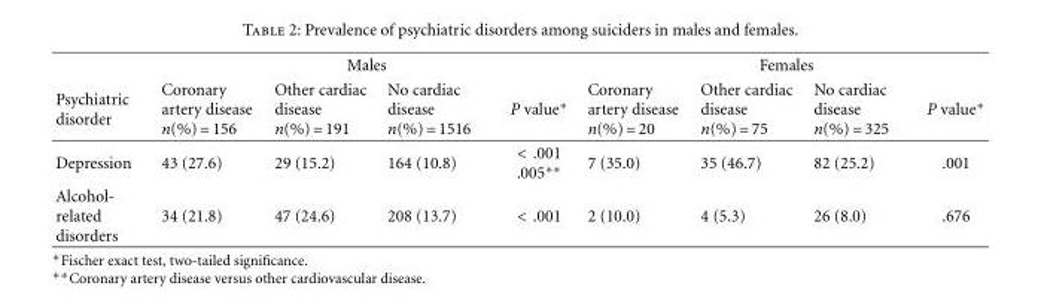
<table><thead><tr><td rowspan="2">Psychiatric disorder</td><td colspan="4">Males</td><td colspan="4">Females</td></tr><tr><td>Coronary artery disease n(%) = 156</td><td>Other cardiac disease n(%) = 191</td><td>No cardiac disease n(%) = 1516</td><td>P value∗</td><td>Coronary artery disease n(%) = 20</td><td>Other cardiac disease n(%) = 75</td><td>No cardiac disease n(%) = 325</td><td>P value∗</td></tr></thead><tbody><tr><td>Depression</td><td>43 (27.6)</td><td>29 (15.2)</td><td>164 (10.8)</td><td>&lt; .001 .005∗∗</td><td>7 (35.0)</td><td>35 (46.7)</td><td>82 (25.2)</td><td>.001</td></tr><tr><td>Alcohol- related disorders</td><td>34 (21.8)</td><td>47 (24.6)</td><td>208 (13.7)</td><td>&lt; .001</td><td>2 (10.0)</td><td>4 (5.3)</td><td>26 (8.0)</td><td>.676</td></tr></tbody></table>